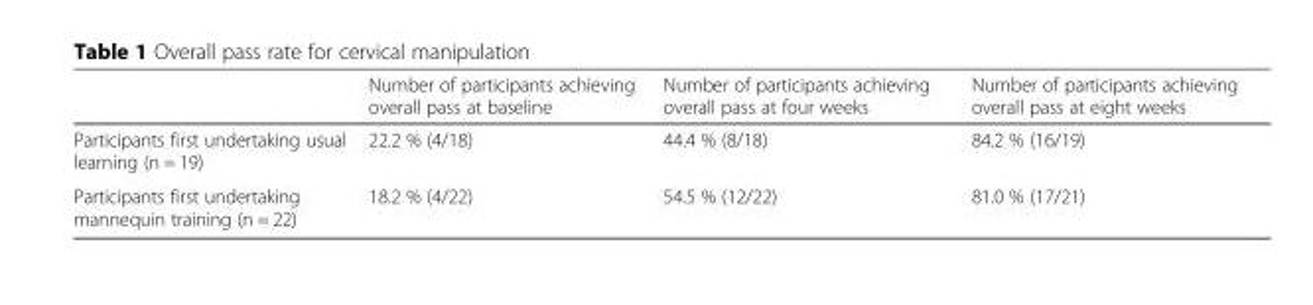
<table><thead><tr><td></td><td>Number of participants achieving overall pass at baseline</td><td>Number of participants achieving overall pass at four weeks</td><td>Number of participants achieving overall pass at eight weeks</td></tr></thead><tbody><tr><td>Participants first undertaking usual learning (n = 19)</td><td>22.2 % (4/18)</td><td>44.4 % (8/18)</td><td>84.2 % (16/19)</td></tr><tr><td>Participants first undertaking mannequin training (n = 22)</td><td>18.2 % (4/22)</td><td>54.5 % (12/22)</td><td>81.0 % (17/21)</td></tr></tbody></table>